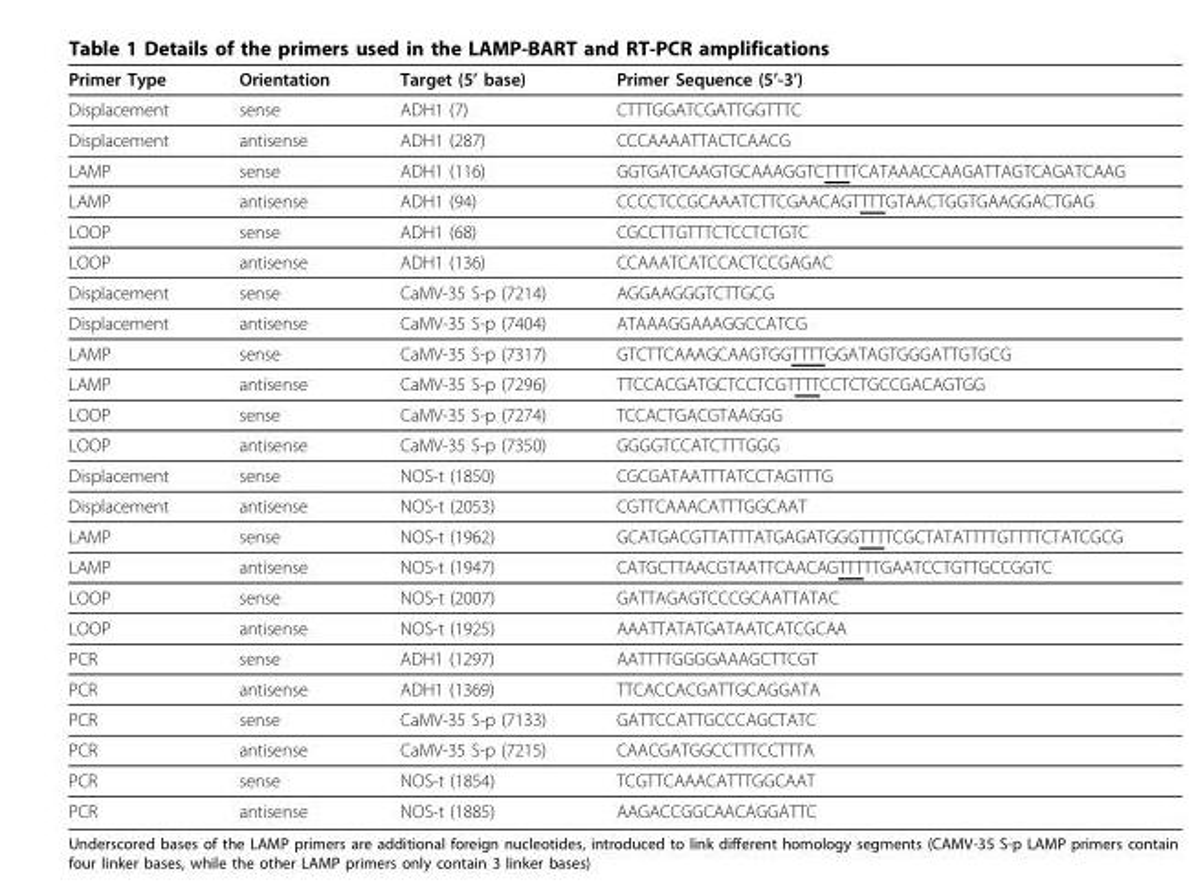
<table><thead><tr><td>Primer Type</td><td>Orientation</td><td>Target (5’ base)</td><td>Primer Sequence (5’-3’)</td></tr></thead><tbody><tr><td>Displacement</td><td>sense</td><td>ADH1 (7)</td><td>CTTTGGATCGATTGGTTTC</td></tr><tr><td>Displacement</td><td>antisense</td><td>ADH1 (287)</td><td>CCCAAAATTACTCAACG</td></tr><tr><td>LAMP</td><td>sense</td><td>ADH1 (116)</td><td>GGTGATCAAGTGCAAAGGTCTTTTCATAAACCAAGATTAGTCAGATCAAG</td></tr><tr><td>LAMP</td><td>antisense</td><td>ADH1 (94)</td><td>CCCCTCCGCAAATCTTCGAACAGTTTTGTAACTGGTGAAGGACTGAG</td></tr><tr><td>LOOP</td><td>sense</td><td>ADH1 (68)</td><td>CGCCTTGTTTCTCCTCTGTC</td></tr><tr><td>LOOP</td><td>antisense</td><td>ADH1 (136)</td><td>CCAAATCATCCACTCCGAGAC</td></tr><tr><td>Displacement</td><td>sense</td><td>CaMV-35 S-p (7214)</td><td>AGGAAGGGTCTTGCG</td></tr><tr><td>Displacement</td><td>antisense</td><td>CaMV-35 S-p (7404)</td><td>ATAAAGGAAAGGCCATCG</td></tr><tr><td>LAMP</td><td>sense</td><td>CaMV-35 S-p (7317)</td><td>GTCTTCAAAGCAAGTGGTTTTGGATAGTGGGATTGTGCG</td></tr><tr><td>LAMP</td><td>antisense</td><td>CaMV-35 S-p (7296)</td><td>TTCCACGATGCTCCTCGTTTTCCTCTGCCGACAGTGG</td></tr><tr><td>LOOP</td><td>sense</td><td>CaMV-35 S-p (7274)</td><td>TCCACTGACGTAAGGG</td></tr><tr><td>LOOP</td><td>antisense</td><td>CaMV-35 S-p (7350)</td><td>GGGGTCCATCTTTGGG</td></tr><tr><td>Displacement</td><td>sense</td><td>NOS-t (1850)</td><td>CGCGATAATTTATCCTAGTTTG</td></tr><tr><td>Displacement</td><td>antisense</td><td>NOS-t (2053)</td><td>CGTTCAAACATTTGGCAAT</td></tr><tr><td>LAMP</td><td>sense</td><td>NOS-t (1962)</td><td>GCATGACGTTATTTATGAGATGGGTTTTCGCTATATTTTGTTTTCTATCGCG</td></tr><tr><td>LAMP</td><td>antisense</td><td>NOS-t (1947)</td><td>CATGCTTAACGTAATTCAACAGTTTTTGAATCCTGTTGCCGGTC</td></tr><tr><td>LOOP</td><td>sense</td><td>NOS-t (2007)</td><td>GATTAGAGTCCCGCAATTATAC</td></tr><tr><td>LOOP</td><td>antisense</td><td>NOS-t (1925)</td><td>AAATTATATGATAATCATCGCAA</td></tr><tr><td>PCR</td><td>sense</td><td>ADH1 (1297)</td><td>AATTTTGGGGAAAGCTTCGT</td></tr><tr><td>PCR</td><td>antisense</td><td>ADH1 (1369)</td><td>TTCACCACGATTGCAGGATA</td></tr><tr><td>PCR</td><td>sense</td><td>CaMV-35 S-p (7133)</td><td>GATTCCATTGCCCAGCTATC</td></tr><tr><td>PCR</td><td>antisense</td><td>CaMV-35 S-p (7215)</td><td>CAACGATGGCCTTTCCTTTA</td></tr><tr><td>PCR</td><td>sense</td><td>NOS-t (1854)</td><td>TCGTTCAAACATTTGGCAAT</td></tr><tr><td>PCR</td><td>antisense</td><td>NOS-t (1885)</td><td>AAGACCGGCAACAGGATTC</td></tr></tbody></table>